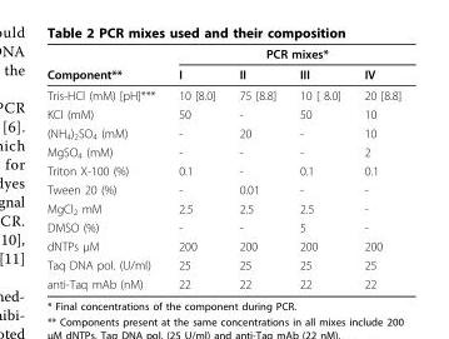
<table><thead><tr><td rowspan="2">Component**</td><td colspan="4">PCR mixes*</td></tr><tr><td>I</td><td>II</td><td>III</td><td>IV</td></tr></thead><tbody><tr><td>Tris-HCl (mM) [pH]***</td><td>10 [8.0]</td><td>75 [8.8]</td><td>10 [ 8.0]</td><td>20 [8.8]</td></tr><tr><td>KCl (mM)</td><td>50</td><td>-</td><td>50</td><td>10</td></tr><tr><td>(NH<sub>4</sub>)<sub>2</sub>SO<sub>4</sub> (mM)</td><td>-</td><td>20</td><td>-</td><td>10</td></tr><tr><td>MgSO<sub>4</sub> (mM)</td><td>-</td><td>-</td><td>-</td><td>2</td></tr><tr><td>Triton X-100 (%)</td><td>0.1</td><td>-</td><td>0.1</td><td>0.1</td></tr><tr><td>Tween 20 (%)</td><td>-</td><td>0.01</td><td>-</td><td>-</td></tr><tr><td>MgCl<sub>2</sub> mM</td><td>2.5</td><td>2.5</td><td>2.5</td><td>-</td></tr><tr><td>DMSO (%)</td><td>-</td><td>-</td><td>5</td><td>-</td></tr><tr><td>dNTPs μM</td><td>200</td><td>200</td><td>200</td><td>200</td></tr><tr><td>Taq DNA pol. (U/ml)</td><td>25</td><td>25</td><td>25</td><td>25</td></tr><tr><td>anti-Taq mAb (nM)</td><td>22</td><td>22</td><td>22</td><td>22</td></tr></tbody></table>